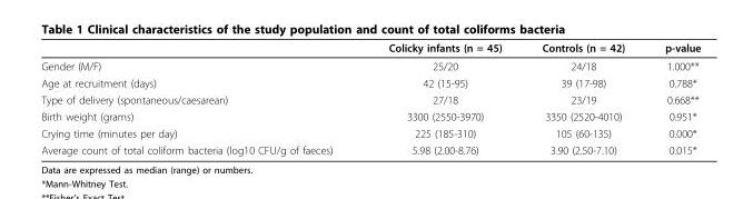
<table><thead><tr><td></td><td>Colicky infants (n = 45)</td><td>Controls (n = 42)</td><td>p-value</td></tr></thead><tbody><tr><td>Gender (M/F)</td><td>25/20</td><td>24/18</td><td>1.000**</td></tr><tr><td>Age at recruitment (days)</td><td>42 (15-95)</td><td>39 (17-98)</td><td>0.788*</td></tr><tr><td>Type of delivery (spontaneous/caesarean)</td><td>27/18</td><td>23/19</td><td>0.668**</td></tr><tr><td>Birth weight (grams)</td><td>3300 (2550-3970)</td><td>3350 (2520-4010)</td><td>0.951*</td></tr><tr><td>Crying time (minutes per day)</td><td>225 (185-310)</td><td>105 (60-135)</td><td>0.000*</td></tr><tr><td>Average count of total coliform bacteria (log10 CFU/g of faeces)</td><td>5.98 (2.00-8.76)</td><td>3.90 (2.50-7.10)</td><td>0.015*</td></tr></tbody></table>